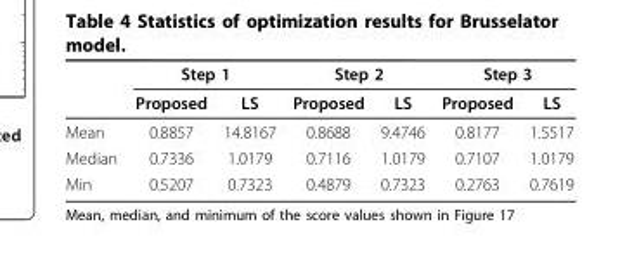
<table><thead><tr><td rowspan="2"></td><td colspan="2">Step 1</td><td colspan="2">Step 2</td><td colspan="2">Step 3</td></tr><tr><td>Proposed</td><td>LS</td><td>Proposed</td><td>LS</td><td>Proposed</td><td>LS</td></tr></thead><tbody><tr><td>Mean</td><td>0.8857</td><td>14.8167</td><td>0.8688</td><td>9.4746</td><td>0.8177</td><td>1.5517</td></tr><tr><td>Median</td><td>0.7336</td><td>1.0179</td><td>0.7116</td><td>1.0179</td><td>0.7107</td><td>1.0179</td></tr><tr><td>Min</td><td>0.5207</td><td>0.7323</td><td>0.4879</td><td>0.7323</td><td>0.2763</td><td>0.7619</td></tr></tbody></table>